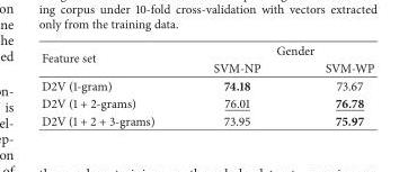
<table><thead><tr><td rowspan="2">Feature set</td><td colspan="2">Gender</td></tr><tr><td>SVM-NP</td><td>SVM-WP</td></tr></thead><tbody><tr><td>D2V (1-gram)</td><td>74.18</td><td>73.67</td></tr><tr><td>D2V (1 + 2-grams)</td><td>76.01</td><td>76.78</td></tr><tr><td>D2V (1 + 2 + 3-grams)</td><td>73.95</td><td>75.97</td></tr></tbody></table>